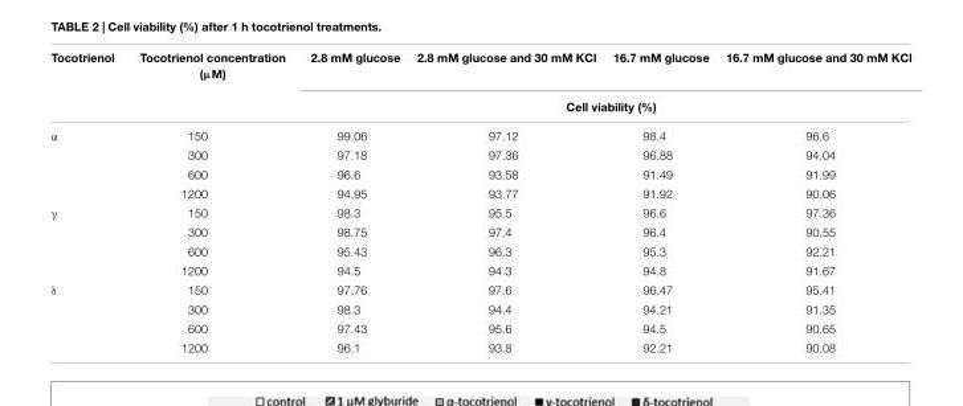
<table><thead><tr><td rowspan="2">Tocotrienol</td><td rowspan="2">Tocotrienol concentration (µM)</td><td>2.8 mM glucose</td><td>2.8 mM glucose and 30 mM KCl</td><td>16.7 mM glucose</td><td>16.7 mM glucose and 30 mM KCl</td></tr><tr><td colspan="4">Cell viability (%)</td></tr></thead><tbody><tr><td rowspan="4">α</td><td>150</td><td>99.06</td><td>97.12</td><td>98.4</td><td>96.6</td></tr><tr><td>300</td><td>97.18</td><td>97.36</td><td>96.88</td><td>94.04</td></tr><tr><td>600</td><td>96.6</td><td>93.58</td><td>91.49</td><td>91.99</td></tr><tr><td>1200</td><td>94.95</td><td>93.77</td><td>91.92</td><td>90.06</td></tr><tr><td rowspan="4">γ</td><td>150</td><td>98.3</td><td>95.5</td><td>96.6</td><td>97.36</td></tr><tr><td>300</td><td>98.75</td><td>97.4</td><td>96.4</td><td>90.55</td></tr><tr><td>600</td><td>95.43</td><td>96.3</td><td>95.3</td><td>92.21</td></tr><tr><td>1200</td><td>94.5</td><td>94.3</td><td>94.8</td><td>91.67</td></tr><tr><td rowspan="4">δ</td><td>150</td><td>97.76</td><td>97.6</td><td>96.47</td><td>95.41</td></tr><tr><td>300</td><td>98.3</td><td>94.4</td><td>94.21</td><td>91.35</td></tr><tr><td>600</td><td>97.43</td><td>95.6</td><td>94.5</td><td>90.65</td></tr><tr><td>1200</td><td>96.1</td><td>93.8</td><td>92.21</td><td>90.08</td></tr></tbody></table>